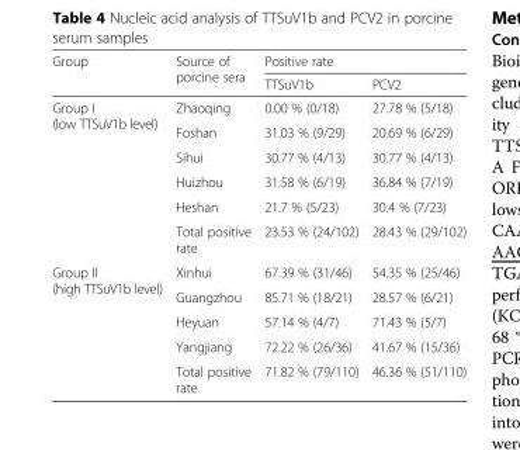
<table><thead><tr><td rowspan="2">Group</td><td rowspan="2">Source of porcine sera</td><td colspan="2">Positive rate</td></tr><tr><td>TTSuV1b</td><td>PCV2</td></tr></thead><tbody><tr><td rowspan="6">Group I (low TTSuV1b level)</td><td>Zhaoqing</td><td>0.00 % (0/18)</td><td>27.78 % (5/18)</td></tr><tr><td>Foshan</td><td>31.03 % (9/29)</td><td>20.69 % (6/29)</td></tr><tr><td>Sihui</td><td>30.77 % (4/13)</td><td>30.77 % (4/13)</td></tr><tr><td>Huizhou</td><td>31.58 % (6/19)</td><td>36.84 % (7/19)</td></tr><tr><td>Heshan</td><td>21.7 % (5/23)</td><td>30.4 % (7/23)</td></tr><tr><td>Total positive rate</td><td>23.53 % (24/102)</td><td>28.43 % (29/102)</td></tr><tr><td rowspan="5">Group II (high TTSuV1b level)</td><td>Xinhui</td><td>67.39 % (31/46)</td><td>54.35 % (25/46)</td></tr><tr><td>Guangzhou</td><td>85.71 % (18/21)</td><td>28.57 % (6/21)</td></tr><tr><td>Heyuan</td><td>57.14 % (4/7)</td><td>71.43 % (5/7)</td></tr><tr><td>Yangjiang</td><td>72.22 % (26/36)</td><td>41.67 % (15/36)</td></tr><tr><td>Total positive rate</td><td>71.82 % (79/110)</td><td>46.36 % (51/110)</td></tr></tbody></table>